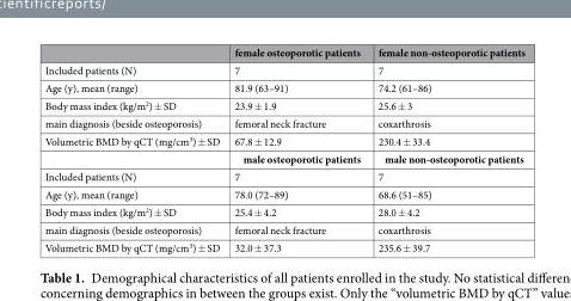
<table><thead><tr><td></td><td>female osteoporotic patients</td><td>female non-osteoporotic patients</td></tr></thead><tbody><tr><td>Included patients (N)</td><td>7</td><td>7</td></tr><tr><td>Age (y), mean (range)</td><td>81.9 (63–91)</td><td>74.2 (61–86)</td></tr><tr><td>Body mass index (kg/m<sup>2</sup>) ± SD</td><td>23.9 ± 1.9</td><td>25.6 ± 3</td></tr><tr><td>main diagnosis (beside osteoporosis)</td><td>femoral neck fracture</td><td>coxarthrosis</td></tr><tr><td rowspan="2">Volumetric BMD by qCT (mg/cm<sup>3</sup>) ± SD</td><td>67.8 ± 12.9</td><td>230.4 ± 33.4</td></tr><tr><td>male osteoporotic patients</td><td>male non-osteoporotic patients</td></tr><tr><td>Included patients (N)</td><td>7</td><td>7</td></tr><tr><td>Age (y), mean (range)</td><td>78.0 (72–89)</td><td>68.6 (51–85)</td></tr><tr><td>Body mass index (kg/m<sup>2</sup>) ± SD</td><td>25.4 ± 4.2</td><td>28.0 ± 4.2</td></tr><tr><td>main diagnosis (beside osteoporosis)</td><td>femoral neck fracture</td><td>coxarthrosis</td></tr><tr><td>Volumetric BMD by qCT (mg/cm<sup>3</sup>) ± SD</td><td>32.0 ± 37.3</td><td>235.6 ± 39.7</td></tr></tbody></table>